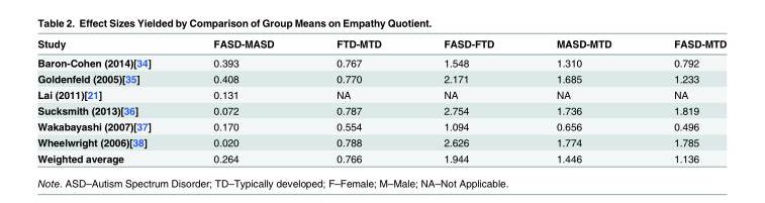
<table><thead><tr><td>Study</td><td>FASD-MASD</td><td>FTD-MTD</td><td>FASD-FTD</td><td>MASD-MTD</td><td>FASD-MTD</td></tr></thead><tbody><tr><td>Baron-Cohen (2014)[34]</td><td>0.393</td><td>0.767</td><td>1.548</td><td>1.310</td><td>0.792</td></tr><tr><td>Goldenfeld (2005)[35]</td><td>0.408</td><td>0.770</td><td>2.171</td><td>1.685</td><td>1.233</td></tr><tr><td>Lai (2011)[21]</td><td>0.131</td><td>NA</td><td>NA</td><td>NA</td><td>NA</td></tr><tr><td>Sucksmith (2013)[36]</td><td>0.072</td><td>0.787</td><td>2.754</td><td>1.736</td><td>1.819</td></tr><tr><td>Wakabayashi (2007)[37]</td><td>0.170</td><td>0.554</td><td>1.094</td><td>0.656</td><td>0.496</td></tr><tr><td>Wheelwright (2006)[38]</td><td>0.020</td><td>0.788</td><td>2.626</td><td>1.774</td><td>1.785</td></tr><tr><td>Weighted average</td><td>0.264</td><td>0.766</td><td>1.944</td><td>1.446</td><td>1.136</td></tr></tbody></table>